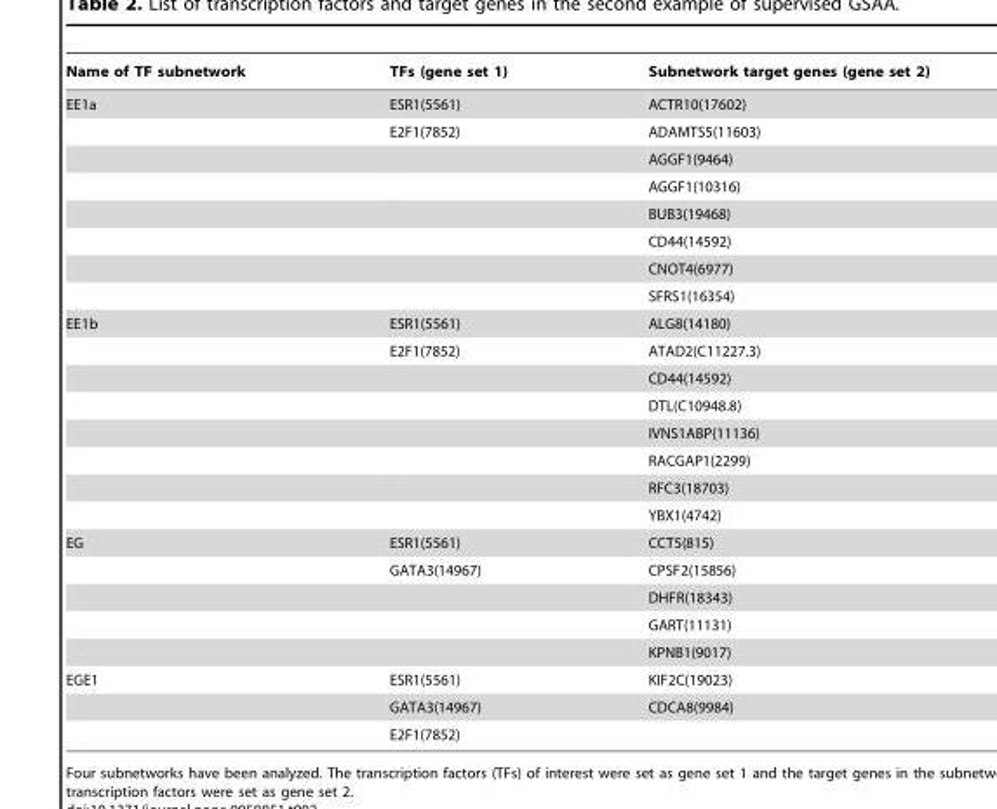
<table><thead><tr><td>Name of TF subnetwork</td><td>TFs (gene set 1)</td><td>Subnetwork target genes (gene set 2)</td></tr></thead><tbody><tr><td rowspan="8">EE1a</td><td>ESR1(5561)</td><td>ACTR10(17602)</td></tr><tr><td>E2F1(7852)</td><td>ADAMTS5(11603)</td></tr><tr><td></td><td>AGGF1(9464)</td></tr><tr><td></td><td>AGGF1(10316)</td></tr><tr><td></td><td>BUB3(19468)</td></tr><tr><td></td><td>CD44(14592)</td></tr><tr><td></td><td>CNOT4(6977)</td></tr><tr><td></td><td>SFRS1(16354)</td></tr><tr><td rowspan="8">EE1b</td><td>ESR1(5561)</td><td>ALG8(14180)</td></tr><tr><td>E2F1(7852)</td><td>ATAD2(C11227.3)</td></tr><tr><td></td><td>CD44(14592)</td></tr><tr><td></td><td>DTL(C10948.8)</td></tr><tr><td></td><td>IVNS1ABP(11136)</td></tr><tr><td></td><td>RACGAP1(2299)</td></tr><tr><td></td><td>RFC3(18703)</td></tr><tr><td></td><td>YBX1(4742)</td></tr><tr><td rowspan="5">EG</td><td>ESR1(5561)</td><td>CCT5(815)</td></tr><tr><td>GATA3(14967)</td><td>CPSF2(15856)</td></tr><tr><td></td><td>DHFR(18343)</td></tr><tr><td></td><td>GART(11131)</td></tr><tr><td></td><td>KPNB1(9017)</td></tr><tr><td rowspan="3">EGE1</td><td>ESR1(5561)</td><td>KIF2C(19023)</td></tr><tr><td>GATA3(14967)</td><td>CDCA8(9984)</td></tr><tr><td>E2F1(7852)</td><td></td></tr></tbody></table>